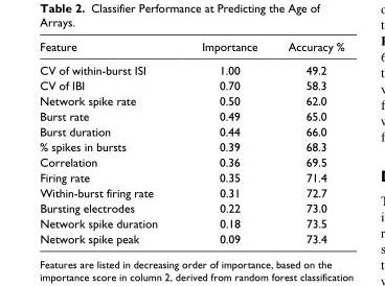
<table><thead><tr><td>Feature</td><td>Importance</td><td>Accuracy %</td></tr></thead><tbody><tr><td>CV of within-burst ISI</td><td>1.00</td><td>49.2</td></tr><tr><td>CV of IBI</td><td>0.70</td><td>58.3</td></tr><tr><td>Network spike rate</td><td>0.50</td><td>62.0</td></tr><tr><td>Burst rate</td><td>0.49</td><td>65.0</td></tr><tr><td>Burst duration</td><td>0.44</td><td>66.0</td></tr><tr><td>% spikes in bursts</td><td>0.39</td><td>68.3</td></tr><tr><td>Correlation</td><td>0.36</td><td>69.5</td></tr><tr><td>Firing rate</td><td>0.35</td><td>71.4</td></tr><tr><td>Within-burst firing rate</td><td>0.31</td><td>72.7</td></tr><tr><td>Bursting electrodes</td><td>0.22</td><td>73.0</td></tr><tr><td>Network spike duration</td><td>0.18</td><td>73.5</td></tr><tr><td>Network spike peak</td><td>0.09</td><td>73.4</td></tr></tbody></table>